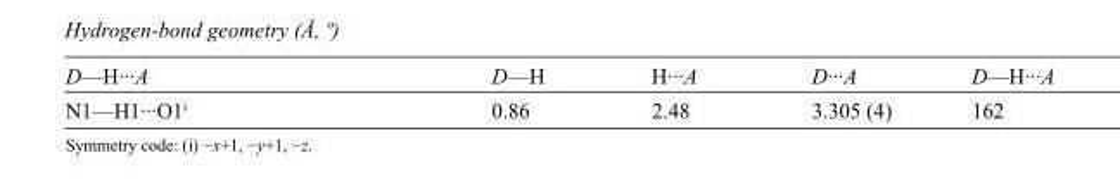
<table><tbody><tr><td>D—H···A</td><td>D—H</td><td>H···A</td><td>D···A</td><td>D—H···A</td></tr><tr><td>N1—H1···O1<sup>i</sup></td><td>0.86</td><td>2.48</td><td>3.305 (4)</td><td>162</td></tr></tbody></table>